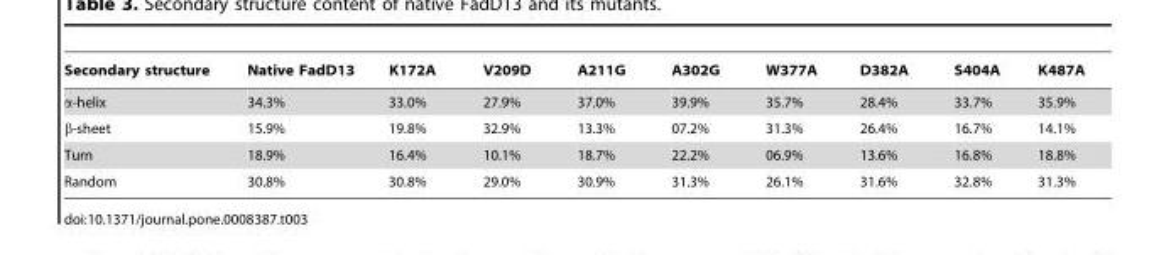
<table><thead><tr><td>Secondary structure</td><td>Native FadD13</td><td>K172A</td><td>V209D</td><td>A211G</td><td>A302G</td><td>W377A</td><td>D382A</td><td>S404A</td><td>K487A</td></tr></thead><tbody><tr><td>α-helix</td><td>34.3%</td><td>33.0%</td><td>27.9%</td><td>37.0%</td><td>39.9%</td><td>35.7%</td><td>28.4%</td><td>33.7%</td><td>35.9%</td></tr><tr><td>β-sheet</td><td>15.9%</td><td>19.8%</td><td>32.9%</td><td>13.3%</td><td>07.2%</td><td>31.3%</td><td>26.4%</td><td>16.7%</td><td>14.1%</td></tr><tr><td>Turn</td><td>18.9%</td><td>16.4%</td><td>10.1%</td><td>18.7%</td><td>22.2%</td><td>06.9%</td><td>13.6%</td><td>16.8%</td><td>18.8%</td></tr><tr><td>Random</td><td>30.8%</td><td>30.8%</td><td>29.0%</td><td>30.9%</td><td>31.3%</td><td>26.1%</td><td>31.6%</td><td>32.8%</td><td>31.3%</td></tr></tbody></table>